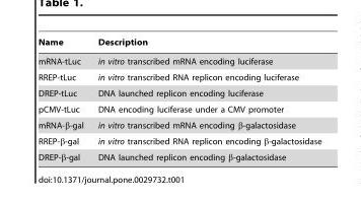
<table><thead><tr><td>Name</td><td>Description</td></tr></thead><tbody><tr><td>mRNA-tLuc</td><td>in vitro transcribed mRNA encoding luciferase</td></tr><tr><td>RREP-tLuc</td><td>in vitro transcribed RNA replicon encoding luciferase</td></tr><tr><td>DREP-tLuc</td><td>DNA launched replicon encoding luciferase</td></tr><tr><td>pCMV-tLuc</td><td>DNA encoding luciferase under a CMV promoter</td></tr><tr><td>mRNA-β-gal</td><td>in vitro transcribed mRNA encoding β-galactosidase</td></tr><tr><td>RREP-β-gal</td><td>in vitro transcribed RNA replicon encoding β-galactosidase</td></tr><tr><td>DREP-β-gal</td><td>DNA launched replicon encoding β-galactosidase</td></tr></tbody></table>